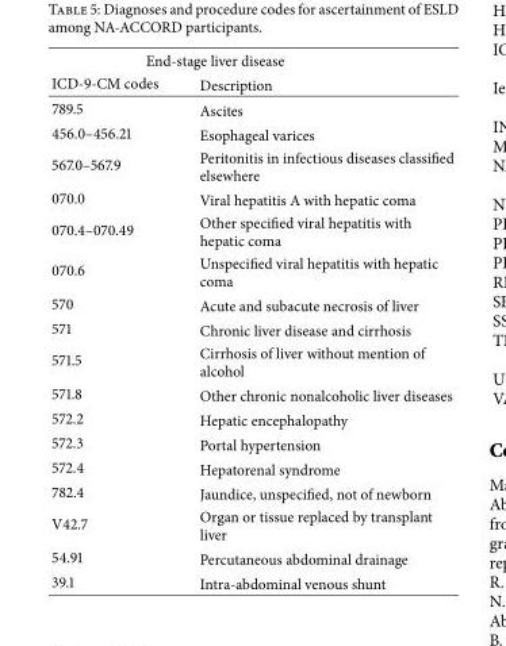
<table><thead><tr><td colspan="2">End-stage liver disease</td></tr><tr><td>ICD-9-CM codes</td><td>Description</td></tr></thead><tbody><tr><td>789.5</td><td>Ascites</td></tr><tr><td>456.0–456.21</td><td>Esophageal varices</td></tr><tr><td>567.0–567.9</td><td>Peritonitis in infectious diseases classified elsewhere</td></tr><tr><td>070.0</td><td>Viral hepatitis A with hepatic coma</td></tr><tr><td>070.4–070.49</td><td>Other specified viral hepatitis with hepatic coma</td></tr><tr><td>070.6</td><td>Unspecified viral hepatitis with hepatic coma</td></tr><tr><td>570</td><td>Acute and subacute necrosis of liver</td></tr><tr><td>571</td><td>Chronic liver disease and cirrhosis</td></tr><tr><td>571.5</td><td>Cirrhosis of liver without mention of alcohol</td></tr><tr><td>571.8</td><td>Other chronic nonalcoholic liver diseases</td></tr><tr><td>572.2</td><td>Hepatic encephalopathy</td></tr><tr><td>572.3</td><td>Portal hypertension</td></tr><tr><td>572.4</td><td>Hepatorenal syndrome</td></tr><tr><td>782.4</td><td>Jaundice, unspecified, not of newborn</td></tr><tr><td>V42.7</td><td>Organ or tissue replaced by transplant liver</td></tr><tr><td>54.91</td><td>Percutaneous abdominal drainage</td></tr><tr><td>39.1</td><td>Intra-abdominal venous shunt</td></tr></tbody></table>